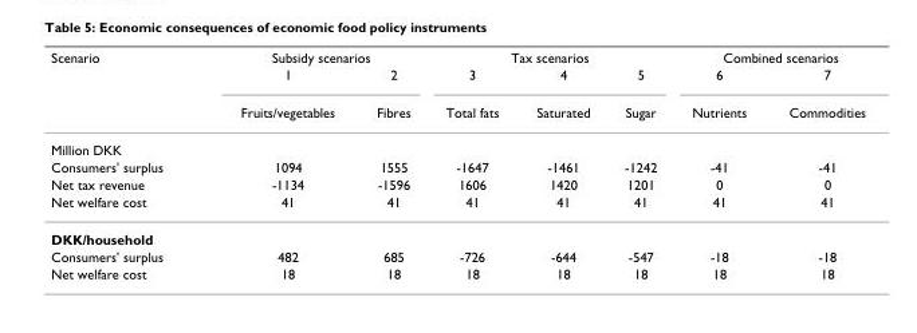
<table><thead><tr><td rowspan="3">Scenario</td><td colspan="2">Subsidy scenarios</td><td colspan="3">Tax scenarios</td><td colspan="2">Combined scenarios</td></tr><tr><td rowspan="2">1 Fruits/vegetables</td><td rowspan="2">2 Fibres</td><td rowspan="2">3 Total fats</td><td rowspan="2">4 Saturated</td><td rowspan="2">5 Sugar</td><td rowspan="2">6 Nutrients</td><td rowspan="2">7 Commodities</td></tr><tr></tr></thead><tbody><tr><td colspan="8">Million DKK</td></tr><tr><td>Consumers&#x27; surplus</td><td>1094</td><td>1555</td><td>-1647</td><td>-1461</td><td>-1242</td><td>-41</td><td>-41</td></tr><tr><td>Net tax revenue</td><td>-1134</td><td>-1596</td><td>1606</td><td>1420</td><td>1201</td><td>0</td><td>0</td></tr><tr><td>Net welfare cost</td><td>41</td><td>41</td><td>41</td><td>41</td><td>41</td><td>41</td><td>41</td></tr><tr><td colspan="8">DKK/household</td></tr><tr><td>Consumers&#x27; surplus</td><td>482</td><td>685</td><td>-726</td><td>-644</td><td>-547</td><td>-18</td><td>-18</td></tr><tr><td>Net welfare cost</td><td>18</td><td>18</td><td>18</td><td>18</td><td>18</td><td>18</td><td>18</td></tr></tbody></table>